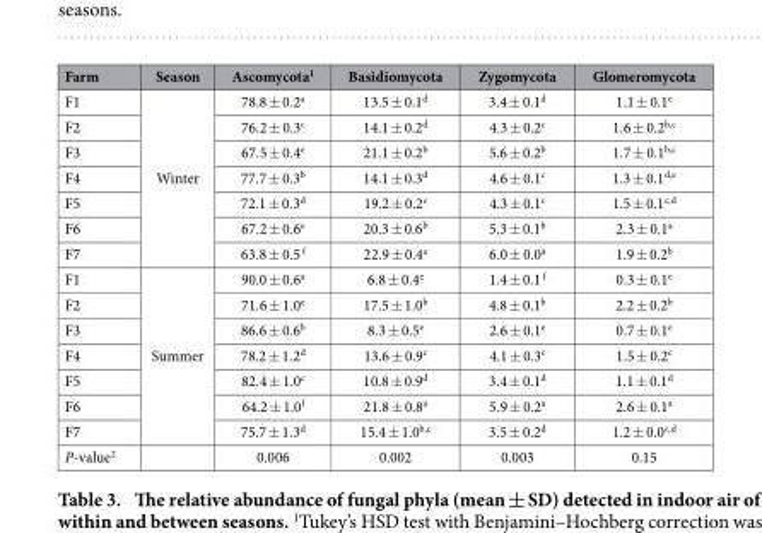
<table><thead><tr><td>Farm</td><td>Season</td><td>Ascomycota<sup>1</sup></td><td>Basidiomycota</td><td>Zygomycota</td><td>Glomeromycota</td></tr></thead><tbody><tr><td>F1</td><td rowspan="7">Winter</td><td>78.8 ± 0.2<sup>a</sup></td><td>13.5 ± 0.1<sup>d</sup></td><td>3.4 ± 0.1<sup>d</sup></td><td>1.1 ± 0.1<sup>e</sup></td></tr><tr><td>F2</td><td>76.2 ± 0.3<sup>c</sup></td><td>14.1 ± 0.2<sup>d</sup></td><td>4.3 ± 0.2<sup>c</sup></td><td>1.6 ± 0.2<sup>b,c</sup></td></tr><tr><td>F3</td><td>67.5 ± 0.4<sup>e</sup></td><td>21.1 ± 0.2<sup>b</sup></td><td>5.6 ± 0.2<sup>b</sup></td><td>1.7 ± 0.1<sup>b,c</sup></td></tr><tr><td>F4</td><td>77.7 ± 0.3<sup>b</sup></td><td>14.1 ± 0.3<sup>d</sup></td><td>4.6 ± 0.1<sup>c</sup></td><td>1.3 ± 0.1<sup>d,e</sup></td></tr><tr><td>F5</td><td>72.1 ± 0.3<sup>d</sup></td><td>19.2 ± 0.2<sup>c</sup></td><td>4.3 ± 0.1<sup>c</sup></td><td>1.5 ± 0.1<sup>c,d</sup></td></tr><tr><td>F6</td><td>67.2 ± 0.6<sup>e</sup></td><td>20.3 ± 0.6<sup>b</sup></td><td>5.3 ± 0.1<sup>b</sup></td><td>2.3 ± 0.1<sup>a</sup></td></tr><tr><td>F7</td><td>63.8 ± 0.5 <sup>f</sup></td><td>22.9 ± 0.4<sup>a</sup></td><td>6.0 ± 0.0<sup>a</sup></td><td>1.9 ± 0.2<sup>b</sup></td></tr><tr><td>F1</td><td rowspan="7">Summer</td><td>90.0 ± 0.6<sup>a</sup></td><td>6.8 ± 0.4<sup>e</sup></td><td>1.4 ± 0.1 <sup>f</sup></td><td>0.3 ± 0.1<sup>e</sup></td></tr><tr><td>F2</td><td>71.6 ± 1.0<sup>e</sup></td><td>17.5 ± 1.0<sup>b</sup></td><td>4.8 ± 0.1<sup>b</sup></td><td>2.2 ± 0.2<sup>b</sup></td></tr><tr><td>F3</td><td>86.6 ± 0.6<sup>b</sup></td><td>8.3 ± 0.5<sup>e</sup></td><td>2.6 ± 0.1<sup>e</sup></td><td>0.7 ± 0.1<sup>e</sup></td></tr><tr><td>F4</td><td>78.2 ± 1.2<sup>d</sup></td><td>13.6 ± 0.9<sup>c</sup></td><td>4.1 ± 0.3<sup>c</sup></td><td>1.5 ± 0.2<sup>c</sup></td></tr><tr><td>F5</td><td>82.4 ± 1.0<sup>c</sup></td><td>10.8 ± 0.9<sup>d</sup></td><td>3.4 ± 0.1<sup>d</sup></td><td>1.1 ± 0.1<sup>d</sup></td></tr><tr><td>F6</td><td>64.2 ± 1.0<sup>f</sup></td><td>21.8 ± 0.8<sup>a</sup></td><td>5.9 ± 0.2<sup>a</sup></td><td>2.6 ± 0.1<sup>a</sup></td></tr><tr><td>F7</td><td>75.7 ± 1.3<sup>d</sup></td><td>15.4 ± 1.0<sup>b,c</sup></td><td>3.5 ± 0.2<sup>d</sup></td><td>1.2 ± 0.0<sup>c,d</sup></td></tr><tr><td>P-value<sup>2</sup></td><td></td><td>0.006</td><td>0.002</td><td>0.003</td><td>0.15</td></tr></tbody></table>